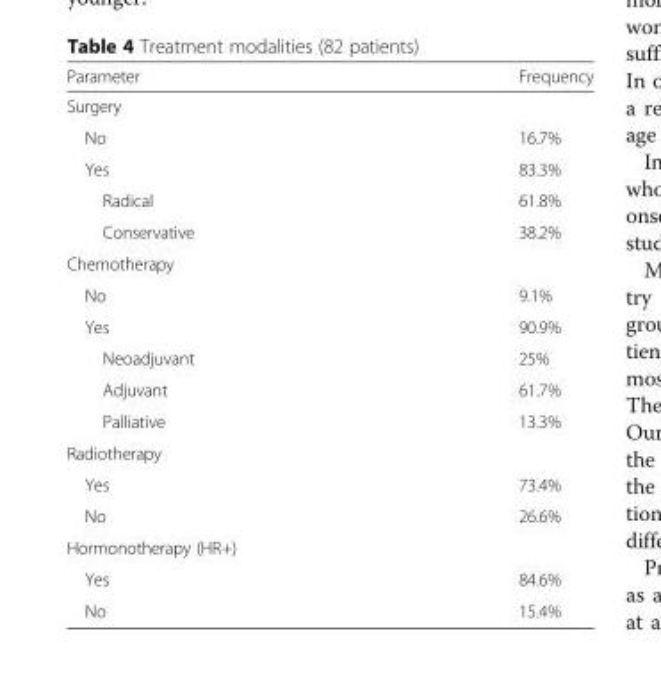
<table><thead><tr><td>Parameter</td><td>Frequency</td></tr></thead><tbody><tr><td colspan="2">Surgery</td></tr><tr><td>No</td><td>16.7%</td></tr><tr><td>Yes</td><td>83.3%</td></tr><tr><td>Radical</td><td>61.8%</td></tr><tr><td>Conservative</td><td>38.2%</td></tr><tr><td colspan="2">Chemotherapy</td></tr><tr><td>No</td><td>9.1%</td></tr><tr><td>Yes</td><td>90.9%</td></tr><tr><td>Neoadjuvant</td><td>25%</td></tr><tr><td>Adjuvant</td><td>61.7%</td></tr><tr><td>Palliative</td><td>13.3%</td></tr><tr><td colspan="2">Radiotherapy</td></tr><tr><td>Yes</td><td>73.4%</td></tr><tr><td>No</td><td>26.6%</td></tr><tr><td colspan="2">Hormonotherapy (HR+)</td></tr><tr><td>Yes</td><td>84.6%</td></tr><tr><td>No</td><td>15.4%</td></tr></tbody></table>